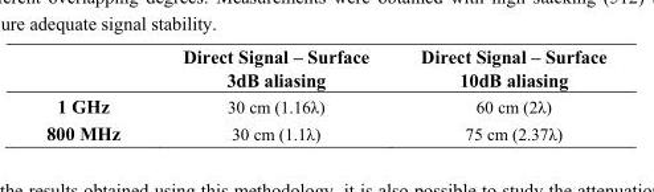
<table><thead><tr><td></td><td>Direct Signal – Surface 3dB aliasing</td><td>Direct Signal – Surface 10dB aliasing</td></tr></thead><tbody><tr><td>1 GHz</td><td>30 cm (1.16λ)</td><td>60 cm (2λ)</td></tr><tr><td>800 MHz</td><td>30 cm (1.1λ)</td><td>75 cm (2.37λ)</td></tr></tbody></table>